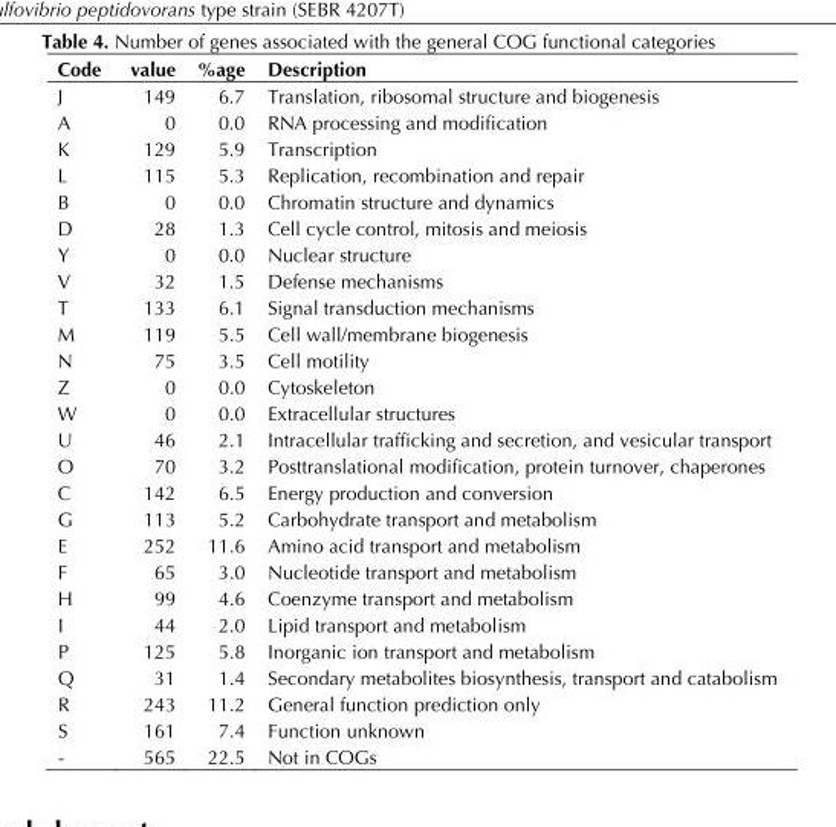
<table><thead><tr><td>Code</td><td>value</td><td>%age</td><td>Description</td></tr></thead><tbody><tr><td>J</td><td>149</td><td>6.7</td><td>Translation, ribosomal structure and biogenesis</td></tr><tr><td>A</td><td>0</td><td>0.0</td><td>RNA processing and modification</td></tr><tr><td>K</td><td>129</td><td>5.9</td><td>Transcription</td></tr><tr><td>L</td><td>115</td><td>5.3</td><td>Replication, recombination and repair</td></tr><tr><td>B</td><td>0</td><td>0.0</td><td>Chromatin structure and dynamics</td></tr><tr><td>D</td><td>28</td><td>1.3</td><td>Cell cycle control, mitosis and meiosis</td></tr><tr><td>Y</td><td>0</td><td>0.0</td><td>Nuclear structure</td></tr><tr><td>V</td><td>32</td><td>1.5</td><td>Defense mechanisms</td></tr><tr><td>T</td><td>133</td><td>6.1</td><td>Signal transduction mechanisms</td></tr><tr><td>M</td><td>119</td><td>5.5</td><td>Cell wall/membrane biogenesis</td></tr><tr><td>N</td><td>75</td><td>3.5</td><td>Cell motility</td></tr><tr><td>Z</td><td>0</td><td>0.0</td><td>Cytoskeleton</td></tr><tr><td>W</td><td>0</td><td>0.0</td><td>Extracellular structures</td></tr><tr><td>U</td><td>46</td><td>2.1</td><td>Intracellular trafficking and secretion, and vesicular transport</td></tr><tr><td>O</td><td>70</td><td>3.2</td><td>Posttranslational modification, protein turnover, chaperones</td></tr><tr><td>C</td><td>142</td><td>6.5</td><td>Energy production and conversion</td></tr><tr><td>G</td><td>113</td><td>5.2</td><td>Carbohydrate transport and metabolism</td></tr><tr><td>E</td><td>252</td><td>11.6</td><td>Amino acid transport and metabolism</td></tr><tr><td>F</td><td>65</td><td>3.0</td><td>Nucleotide transport and metabolism</td></tr><tr><td>H</td><td>99</td><td>4.6</td><td>Coenzyme transport and metabolism</td></tr><tr><td>I</td><td>44</td><td>2.0</td><td>Lipid transport and metabolism</td></tr><tr><td>P</td><td>125</td><td>5.8</td><td>Inorganic ion transport and metabolism</td></tr><tr><td>Q</td><td>31</td><td>1.4</td><td>Secondary metabolites biosynthesis, transport and catabolism</td></tr><tr><td>R</td><td>243</td><td>11.2</td><td>General function prediction only</td></tr><tr><td>S</td><td>161</td><td>7.4</td><td>Function unknown</td></tr><tr><td>-</td><td>565</td><td>22.5</td><td>Not in COGs</td></tr></tbody></table>